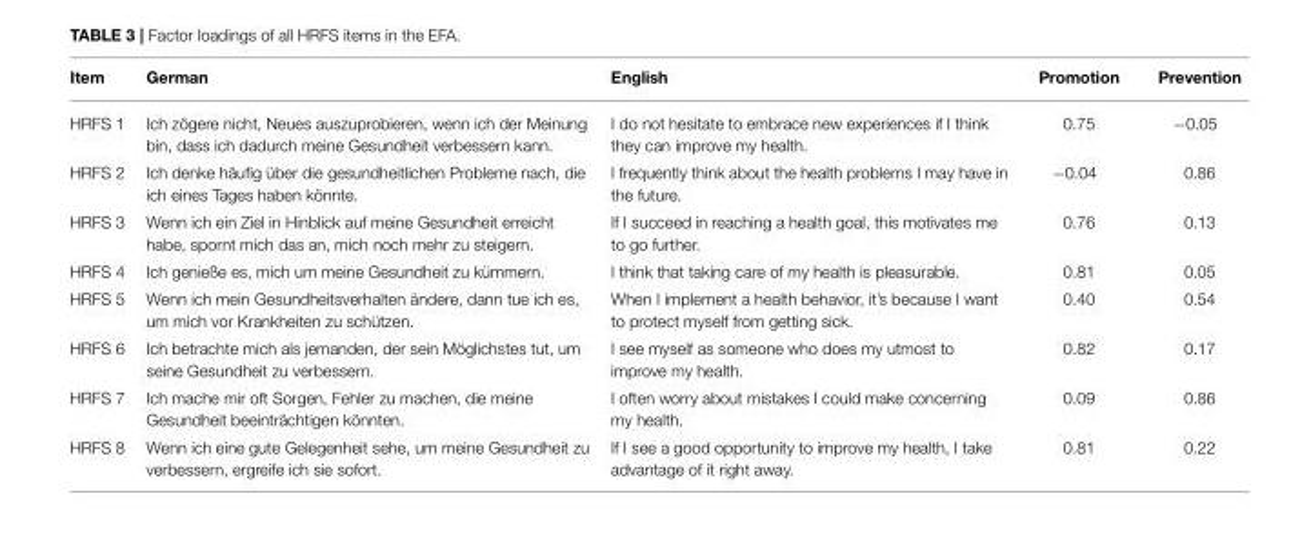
<table><thead><tr><td>Item</td><td>German</td><td>English</td><td>Promotion</td><td>Prevention</td></tr></thead><tbody><tr><td>HRFS 1</td><td>Ich zögere nicht, Neues auszuprobieren, wenn ich der Meinung bin, dass ich dadurch meine Gesundheit verbessern kann.</td><td>I do not hesitate to embrace new experiences if I think they can improve my health.</td><td>0.75</td><td>−0.05</td></tr><tr><td>HRFS 2</td><td>Ich denke häufig über die gesundheitlichen Probleme nach, die ich eines Tages haben könnte.</td><td>I frequently think about the health problems I may have in the future.</td><td>−0.04</td><td>0.86</td></tr><tr><td>HRFS 3</td><td>Wenn ich ein Ziel in Hinblick auf meine Gesundheit erreicht habe, spornt mich das an, mich noch mehr zu steigern.</td><td>If I succeed in reaching a health goal, this motivates me to go further.</td><td>0.76</td><td>0.13</td></tr><tr><td>HRFS 4</td><td>Ich genieße es, mich um meine Gesundheit zu kümmern.</td><td>I think that taking care of my health is pleasurable.</td><td>0.81</td><td>0.05</td></tr><tr><td>HRFS 5</td><td>Wenn ich mein Gesundheitsverhalten ändere, dann tue ich es, um mich vor Krankheiten zu schützen.</td><td>When I implement a health behavior, it’s because I want to protect myself from getting sick.</td><td>0.40</td><td>0.54</td></tr><tr><td>HRFS 6</td><td>Ich betrachte mich als jemanden, der sein Möglichstes tut, um seine Gesundheit zu verbessern.</td><td>I see myself as someone who does my utmost to improve my health.</td><td>0.82</td><td>0.17</td></tr><tr><td>HRFS 7</td><td>Ich mache mir oft Sorgen, Fehler zu machen, die meine Gesundheit beeinträchtigen könnten.</td><td>I often worry about mistakes I could make concerning my health.</td><td>0.09</td><td>0.86</td></tr><tr><td>HRFS 8</td><td>Wenn ich eine gute Gelegenheit sehe, um meine Gesundheit zu verbessern, ergreife ich sie sofort.</td><td>If I see a good opportunity to improve my health, I take advantage of it right away.</td><td>0.81</td><td>0.22</td></tr></tbody></table>